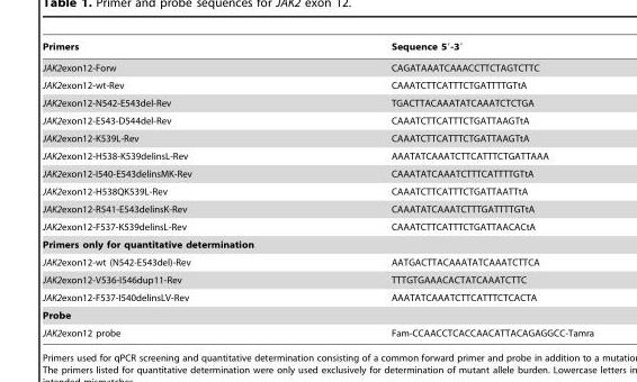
<table><thead><tr><td>Primers</td><td>Sequence 5′-3′</td></tr></thead><tbody><tr><td>JAK2exon12-Forw</td><td>CAGATAAATCAAACCTTCTAGTCTTC</td></tr><tr><td>JAK2exon12-wt-Rev</td><td>CAAATCTTCATTTCTGATTTTGTtA</td></tr><tr><td>JAK2exon12-N542-E543del-Rev</td><td>TGACTTACAAATATCAAATCTCTGA</td></tr><tr><td>JAK2exon12-E543-D544del-Rev</td><td>CAAATCTTCATTTCTGATTAAGTtA</td></tr><tr><td>JAK2exon12-K539L-Rev</td><td>CAAATCTTCATTTCTGATTAAGTtA</td></tr><tr><td>JAK2exon12-H538-K539delinsL-Rev</td><td>AAATATCAAATCTTCATTTCTGATTAAA</td></tr><tr><td>JAK2exon12-I540-E543delinsMK-Rev</td><td>CAAATATCAAATCTTTCATTTTGTtA</td></tr><tr><td>JAK2exon12-H538QK539L-Rev</td><td>CAAATCTTCATTTCTGATTAATTtA</td></tr><tr><td>JAK2exon12-R541-E543delinsK-Rev</td><td>CAAATATCAAATCTTTGATTTTGTtA</td></tr><tr><td>JAK2exon12-F537-K539delinsL-Rev</td><td>CAAATCTTCATTTCTGATTAACACtA</td></tr><tr><td colspan="2">Primers only for quantitative determination</td></tr><tr><td>JAK2exon12-wt (N542-E543del)-Rev</td><td>AATGACTTACAAATATCAAATCTTCA</td></tr><tr><td>JAK2exon12-V536-I546dup11-Rev</td><td>TTTGTGAAACACTATCAAATCTTC</td></tr><tr><td>JAK2exon12-F537-I540delinsLV-Rev</td><td>AAATATCAAATCTTCATTTCTCACTA</td></tr><tr><td colspan="2">Probe</td></tr><tr><td>JAK2exon12 probe</td><td>Fam-CCAACCTCACCAACATTACAGAGGCC-Tamra</td></tr></tbody></table>